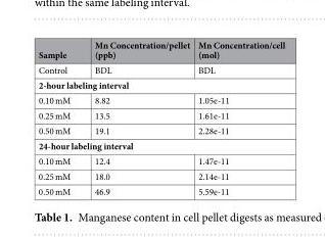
<table><thead><tr><td>Sample</td><td>Mn Concentration/pellet (ppb)</td><td>Mn Concentration/cell (mol)</td></tr></thead><tbody><tr><td>Control</td><td>BDL</td><td>BDL</td></tr><tr><td colspan="3">2-hour labeling interval</td></tr><tr><td>0.10 mM</td><td>8.82</td><td>1.05e-11</td></tr><tr><td>0.25 mM</td><td>13.5</td><td>1.61e-11</td></tr><tr><td>0.50 mM</td><td>19.1</td><td>2.28e-11</td></tr><tr><td colspan="3">24-hour labeling interval</td></tr><tr><td>0.10 mM</td><td>12.4</td><td>1.47e-11</td></tr><tr><td>0.25 mM</td><td>18.0</td><td>2.14e-11</td></tr><tr><td>0.50 mM</td><td>46.9</td><td>5.59e-11</td></tr></tbody></table>